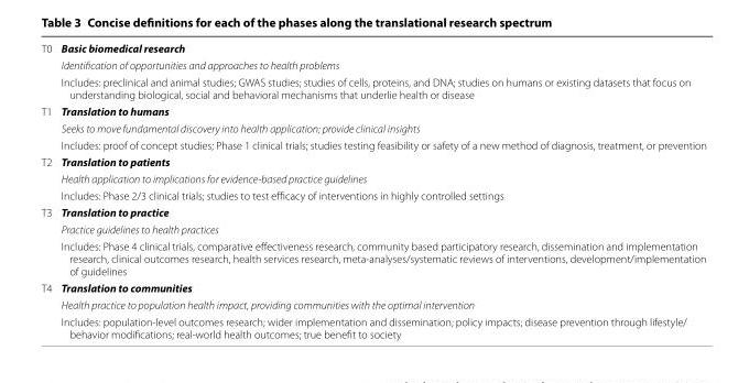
<table><tbody><tr><td rowspan="3">T0</td><td>Basic biomedical research</td></tr><tr><td>Identification of opportunities and approaches to health problems</td></tr><tr><td>Includes: preclinical and animal studies; GWAS studies; studies of cells, proteins, and DNA; studies on humans or existing datasets that focus on understanding biological, social and behavioral mechanisms that underlie health or disease</td></tr><tr><td rowspan="3">T1</td><td>Translation to humans</td></tr><tr><td>Seeks to move fundamental discovery into health application; provide clinical insights</td></tr><tr><td>Includes: proof of concept studies; Phase 1 clinical trials; studies testing feasibility or safety of a new method of diagnosis, treatment, or prevention</td></tr><tr><td rowspan="3">T2</td><td>Translation to patients</td></tr><tr><td>Health application to implications for evidence-based practice guidelines</td></tr><tr><td>Includes: Phase 2/3 clinical trials; studies to test efficacy of interventions in highly controlled settings</td></tr><tr><td rowspan="3">T3</td><td>Translation to practice</td></tr><tr><td>Practice guidelines to health practices</td></tr><tr><td>Includes: Phase 4 clinical trials, comparative effectiveness research, community based participatory research, dissemination and implementation research, clinical outcomes research, health services research, meta-analyses/systematic reviews of interventions, development/implementation of guidelines</td></tr><tr><td rowspan="3">T4</td><td>Translation to communities</td></tr><tr><td>Health practice to population health impact, providing communities with the optimal intervention</td></tr><tr><td>Includes: population-level outcomes research; wider implementation and dissemination; policy impacts; disease prevention through lifestyle/ behavior modifications; real-world health outcomes; true benefit to society</td></tr></tbody></table>